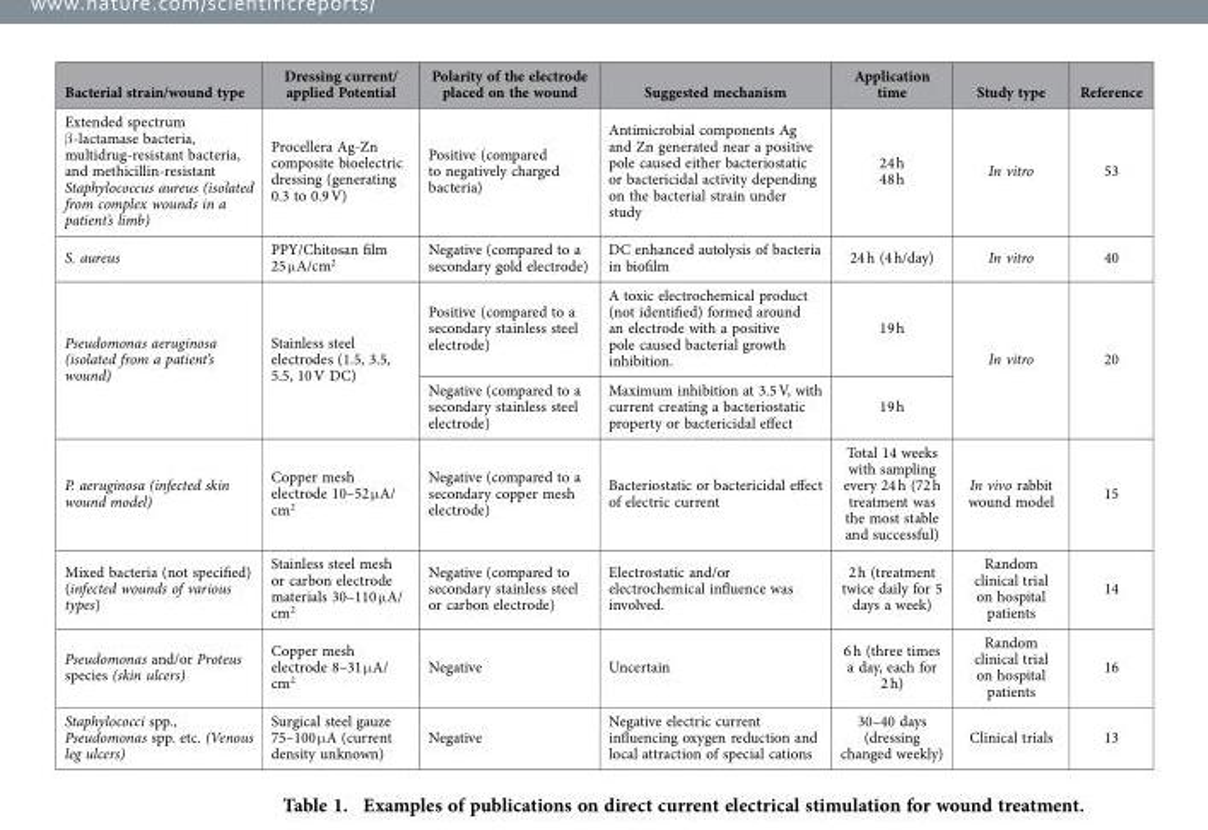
<table><thead><tr><td>Bacterial strain/wound type</td><td>Dressing current/ applied Potential</td><td>Polarity of the electrode placed on the wound</td><td>Suggested mechanism</td><td>Application time</td><td>Study type</td><td>Reference</td></tr></thead><tbody><tr><td>Extended spectrum β -lactamase bacteria, multidrug-resistant bacteria, and methicillin-resistant Staphylococcus aureus (isolated from complex wounds in a patient’s limb)</td><td>Procellera Ag-Zn composite bioelectric dressing (generating 0.3 to 0.9 V)</td><td>Positive (compared to negatively charged bacteria)</td><td>Antimicrobial components Ag and Zn generated near a positive pole caused either bacteriostatic or bactericidal activity depending on the bacterial strain under study</td><td>24 h 48 h</td><td>In vitro</td><td>53</td></tr><tr><td>S. aureus</td><td>PPY/Chitosan film 25 μ A/cm<sup>2</sup></td><td>Negative (compared to a secondary gold electrode)</td><td>DC enhanced autolysis of bacteria in biofilm</td><td>24 h (4 h/day)</td><td>In vitro</td><td>40</td></tr><tr><td rowspan="2">Pseudomonas aeruginosa (isolated from a patient’s wound)</td><td rowspan="2">Stainless steel electrodes (1.5, 3.5, 5.5, 10 V DC)</td><td>Positive (compared to a secondary stainless steel electrode)</td><td>A toxic electrochemical product (not identified) formed around an electrode with a positive pole caused bacterial growth inhibition.</td><td>19 h</td><td rowspan="2">In vitro</td><td rowspan="2">20</td></tr><tr><td>Negative (compared to a secondary stainless steel electrode)</td><td>Maximum inhibition at 3.5 V, with current creating a bacteriostatic property or bactericidal effect</td><td>19 h</td></tr><tr><td>P. aeruginosa (infected skin wound model)</td><td>Copper mesh electrode 10–52 μ A/ cm<sup>2</sup></td><td>Negative (compared to a secondary copper mesh electrode)</td><td>Bacteriostatic or bactericidal effect of electric current</td><td>Total 14 weeks with sampling every 24 h (72 h treatment was the most stable and successful)</td><td>In vivo rabbit wound model</td><td>15</td></tr><tr><td>Mixed bacteria (not specified) (infected wounds of various types)</td><td>Stainless steel mesh or carbon electrode materials 30–110 μ A/ cm<sup>2</sup></td><td>Negative (compared to secondary stainless steel or carbon electrode)</td><td>Electrostatic and/or electrochemical influence was involved.</td><td>2 h (treatment twice daily for 5 days a week)</td><td>Random clinical trial on hospital patients</td><td>14</td></tr><tr><td>Pseudomonas and/or Proteus species (skin ulcers)</td><td>Copper mesh electrode 8–31 μ A/ cm<sup>2</sup></td><td>Negative</td><td>Uncertain</td><td>6 h (three times a day, each for 2 h)</td><td>Random clinical trial on hospital patients</td><td>16</td></tr><tr><td>Staphylococci spp., Pseudomonas spp. etc. (Venous leg ulcers)</td><td>Surgical steel gauze 75–100 μ A (current density unknown)</td><td>Negative</td><td>Negative electric current influencing oxygen reduction and local attraction of special cations</td><td>30–40 days (dressing changed weekly)</td><td>Clinical trials</td><td>13</td></tr></tbody></table>